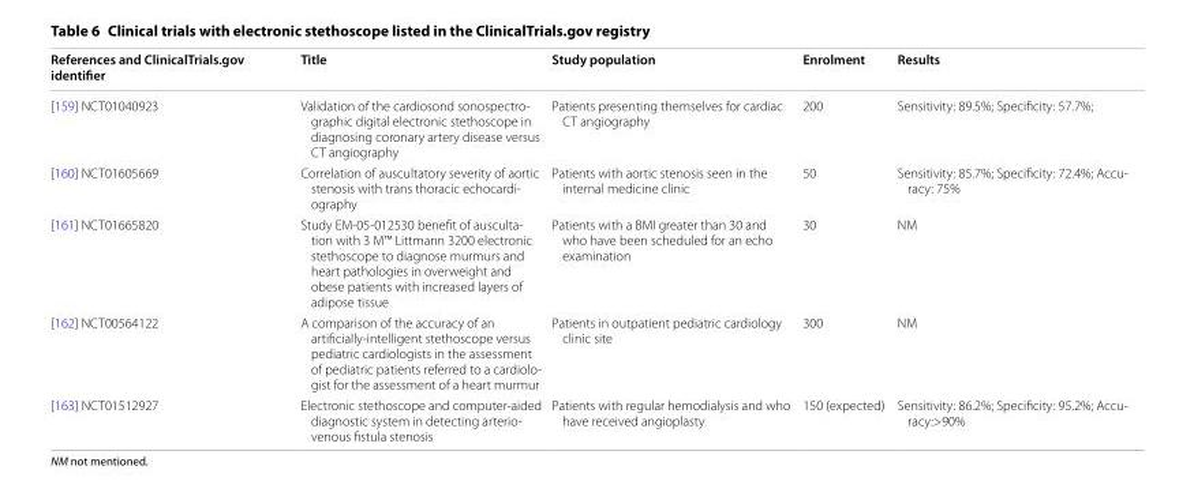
<table><thead><tr><td>References and ClinicalTrials.gov identifier</td><td>Title</td><td>Study population</td><td>Enrolment</td><td>Results</td></tr></thead><tbody><tr><td>[159] NCT01040923</td><td>Validation of the cardiosond sonospectro- graphic digital electronic stethoscope in diagnosing coronary artery disease versus CT angiography</td><td>Patients presenting themselves for cardiac CT angiography</td><td>200</td><td>Sensitivity: 89.5%; Specificity: 57.7%;</td></tr><tr><td>[160] NCT01605669</td><td>Correlation of auscultatory severity of aortic stenosis with trans thoracic echocardi- ography</td><td>Patients with aortic stenosis seen in the internal medicine clinic</td><td>50</td><td>Sensitivity: 85.7%; Specificity: 72.4%; Accu- racy: 75%</td></tr><tr><td>[161] NCT01665820</td><td>Study EM-05-012530 benefit of ausculta- tion with 3 M™ Littmann 3200 electronic stethoscope to diagnose murmurs and heart pathologies in overweight and obese patients with increased layers of adipose tissue</td><td>Patients with a BMI greater than 30 and who have been scheduled for an echo examination</td><td>30</td><td>NM</td></tr><tr><td>[162] NCT00564122</td><td>A comparison of the accuracy of an artificially-intelligent stethoscope versus pediatric cardiologists in the assessment of pediatric patients referred to a cardiolo- gist for the assessment of a heart murmur</td><td>Patients in outpatient pediatric cardiology clinic site</td><td>300</td><td>NM</td></tr><tr><td>[163] NCT01512927</td><td>Electronic stethoscope and computer-aided diagnostic system in detecting arterio- venous fistula stenosis</td><td>Patients with regular hemodialysis and who have received angioplasty</td><td>150 (expected)</td><td>Sensitivity: 86.2%; Specificity: 95.2%; Accu- racy:&gt;90%</td></tr></tbody></table>